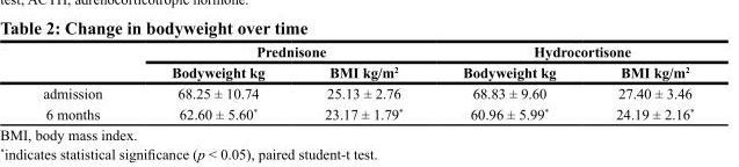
<table><thead><tr><td rowspan="2"></td><td colspan="2">Prednisone</td><td colspan="2">Hydrocortisone</td></tr><tr><td>Bodyweight kg</td><td>BMI kg/m<sup>2</sup></td><td>Bodyweight kg</td><td>BMI kg/m<sup>2</sup></td></tr></thead><tbody><tr><td>admission</td><td>68.25 ± 10.74</td><td>25.13 ± 2.76</td><td>68.83 ± 9.60</td><td>27.40 ± 3.46</td></tr><tr><td>6 months</td><td>62.60 ± 5.60*</td><td>23.17 ± 1.79*</td><td>60.96 ± 5.99*</td><td>24.19 ± 2.16*</td></tr></tbody></table>